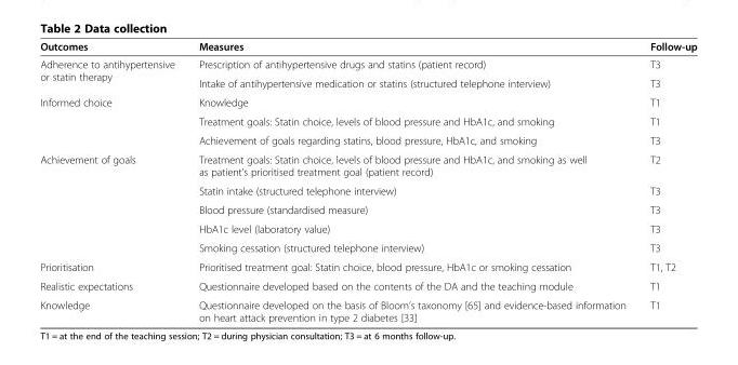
<table><thead><tr><td>Outcomes</td><td>Measures</td><td>Follow-up</td></tr></thead><tbody><tr><td rowspan="2">Adherence to antihypertensive or statin therapy</td><td>Prescription of antihypertensive drugs and statins (patient record)</td><td>T3</td></tr><tr><td>Intake of antihypertensive medication or statins (structured telephone interview)</td><td>T3</td></tr><tr><td rowspan="3">Informed choice</td><td>Knowledge</td><td>T1</td></tr><tr><td>Treatment goals: Statin choice, levels of blood pressure and HbA1c, and smoking</td><td>T1</td></tr><tr><td>Achievement of goals regarding statins, blood pressure, HbA1c, and smoking</td><td>T3</td></tr><tr><td rowspan="5">Achievement of goals</td><td>Treatment goals: Statin choice, levels of blood pressure and HbA1c, and smoking as well as patient’s prioritised treatment goal (patient record)</td><td>T2</td></tr><tr><td>Statin intake (structured telephone interview)</td><td>T3</td></tr><tr><td>Blood pressure (standardised measure)</td><td>T3</td></tr><tr><td>HbA1c level (laboratory value)</td><td>T3</td></tr><tr><td>Smoking cessation (structured telephone interview)</td><td>T3</td></tr><tr><td>Prioritisation</td><td>Prioritised treatment goal: Statin choice, blood pressure, HbA1c or smoking cessation</td><td>T1, T2</td></tr><tr><td>Realistic expectations</td><td>Questionnaire developed based on the contents of the DA and the teaching module</td><td>T1</td></tr><tr><td>Knowledge</td><td>Questionnaire developed on the basis of Bloom’s taxonomy [65] and evidence-based information on heart attack prevention in type 2 diabetes [33]</td><td>T1</td></tr></tbody></table>